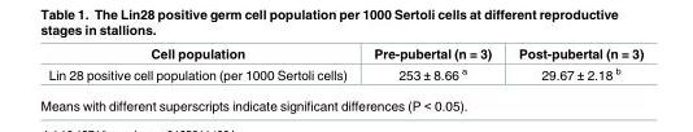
<table><thead><tr><td>Cell population</td><td>Pre-pubertal (n = 3)</td><td>Post-pubertal (n = 3)</td></tr></thead><tbody><tr><td>Lin 28 positive cell population (per 1000 Sertoli cells)</td><td>253 ± 8.66 <sup>a</sup></td><td>29.67 ± 2.18 <sup>b</sup></td></tr></tbody></table>